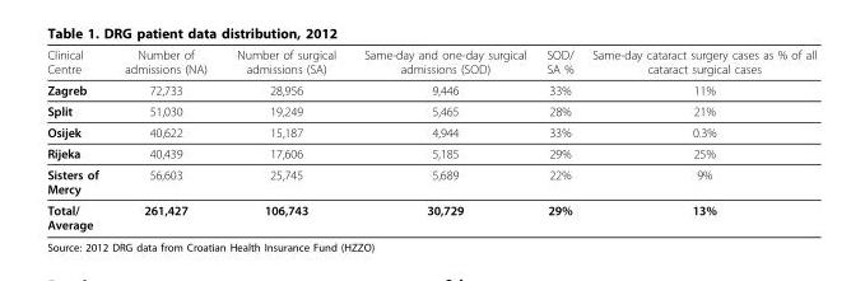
<table><thead><tr><td>Clinical Centre</td><td>Number of admissions (NA)</td><td>Number of surgical admissions (SA)</td><td>Same-day and one-day surgical admissions (SOD)</td><td>SOD/ SA %</td><td>Same-day cataract surgery cases as % of all cataract surgical cases</td></tr></thead><tbody><tr><td>Zagreb</td><td>72,733</td><td>28,956</td><td>9,446</td><td>33%</td><td>11%</td></tr><tr><td>Split</td><td>51,030</td><td>19,249</td><td>5,465</td><td>28%</td><td>21%</td></tr><tr><td>Osijek</td><td>40,622</td><td>15,187</td><td>4,944</td><td>33%</td><td>0.3%</td></tr><tr><td>Rijeka</td><td>40,439</td><td>17,606</td><td>5,185</td><td>29%</td><td>25%</td></tr><tr><td>Sisters of Mercy</td><td>56,603</td><td>25,745</td><td>5,689</td><td>22%</td><td>9%</td></tr><tr><td>Total/ Average</td><td>261,427</td><td>106,743</td><td>30,729</td><td>29%</td><td>13%</td></tr></tbody></table>